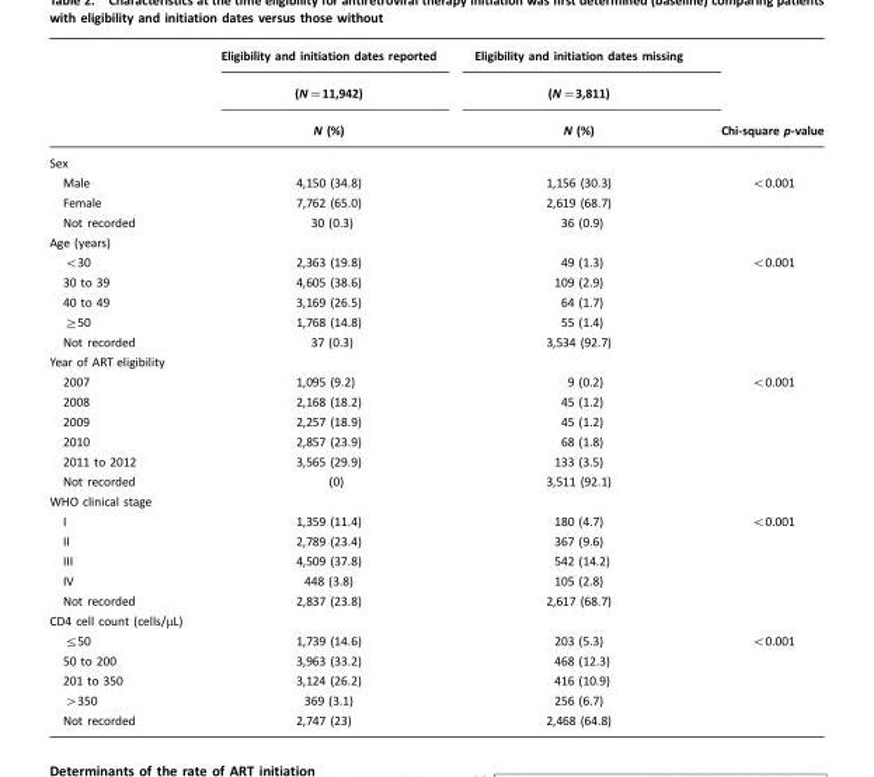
<table><thead><tr><td rowspan="3"></td><td rowspan="3">Eligibility and initiation dates reported (N=11,942) N (%)</td><td rowspan="3">Eligibility and initiation dates missing (N=3,811) N (%)</td><td rowspan="3">Chi-square p-value</td></tr><tr></tr><tr></tr></thead><tbody><tr><td colspan="4">Sex</td></tr><tr><td>Male</td><td>4,150 (34.8)</td><td>1,156 (30.3)</td><td>&lt;0.001</td></tr><tr><td>Female</td><td>7,762 (65.0)</td><td>2,619 (68.7)</td><td></td></tr><tr><td>Not recorded</td><td>30 (0.3)</td><td>36 (0.9)</td><td></td></tr><tr><td colspan="4">Age (years)</td></tr><tr><td>&lt;30</td><td>2,363 (19.8)</td><td>49 (1.3)</td><td>&lt;0.001</td></tr><tr><td>30 to 39</td><td>4,605 (38.6)</td><td>109 (2.9)</td><td></td></tr><tr><td>40 to 49</td><td>3,169 (26.5)</td><td>64 (1.7)</td><td></td></tr><tr><td>≥50</td><td>1,768 (14.8)</td><td>55 (1.4)</td><td></td></tr><tr><td>Not recorded</td><td>37 (0.3)</td><td>3,534 (92.7)</td><td></td></tr><tr><td colspan="4">Year of ART eligibility</td></tr><tr><td>2007</td><td>1,095 (9.2)</td><td>9 (0.2)</td><td>&lt;0.001</td></tr><tr><td>2008</td><td>2,168 (18.2)</td><td>45 (1.2)</td><td></td></tr><tr><td>2009</td><td>2,257 (18.9)</td><td>45 (1.2)</td><td></td></tr><tr><td>2010</td><td>2,857 (23.9)</td><td>68 (1.8)</td><td></td></tr><tr><td>2011 to 2012</td><td>3,565 (29.9)</td><td>133 (3.5)</td><td></td></tr><tr><td>Not recorded</td><td>(0)</td><td>3,511 (92.1)</td><td></td></tr><tr><td colspan="4">WHO clinical stage</td></tr><tr><td>I</td><td>1,359 (11.4)</td><td>180 (4.7)</td><td>&lt;0.001</td></tr><tr><td>II</td><td>2,789 (23.4)</td><td>367 (9.6)</td><td></td></tr><tr><td>III</td><td>4,509 (37.8)</td><td>542 (14.2)</td><td></td></tr><tr><td>IV</td><td>448 (3.8)</td><td>105 (2.8)</td><td></td></tr><tr><td>Not recorded</td><td>2,837 (23.8)</td><td>2,617 (68.7)</td><td></td></tr><tr><td colspan="4">CD4 cell count (cells/µL)</td></tr><tr><td>≤50</td><td>1,739 (14.6)</td><td>203 (5.3)</td><td>&lt;0.001</td></tr><tr><td>50 to 200</td><td>3,963 (33.2)</td><td>468 (12.3)</td><td></td></tr><tr><td>201 to 350</td><td>3,124 (26.2)</td><td>416 (10.9)</td><td></td></tr><tr><td>&gt;350</td><td>369 (3.1)</td><td>256 (6.7)</td><td></td></tr><tr><td>Not recorded</td><td>2,747 (23)</td><td>2,468 (64.8)</td><td></td></tr></tbody></table>